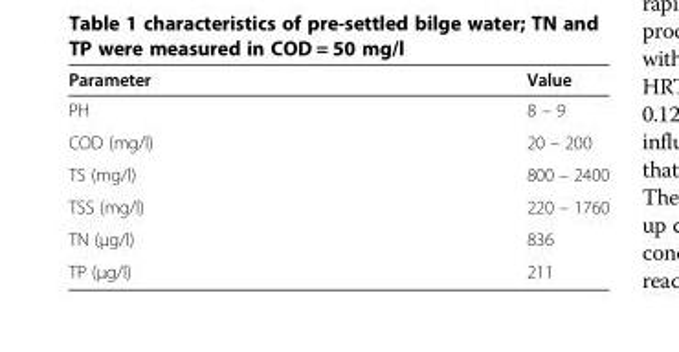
<table><thead><tr><td>Parameter</td><td>Value</td></tr></thead><tbody><tr><td>PH</td><td>8 – 9</td></tr><tr><td>COD (mg/l)</td><td>20 – 200</td></tr><tr><td>TS (mg/l)</td><td>800 – 2400</td></tr><tr><td>TSS (mg/l)</td><td>220 – 1760</td></tr><tr><td>TN (μg/l)</td><td>836</td></tr><tr><td>TP (μg/l)</td><td>211</td></tr></tbody></table>